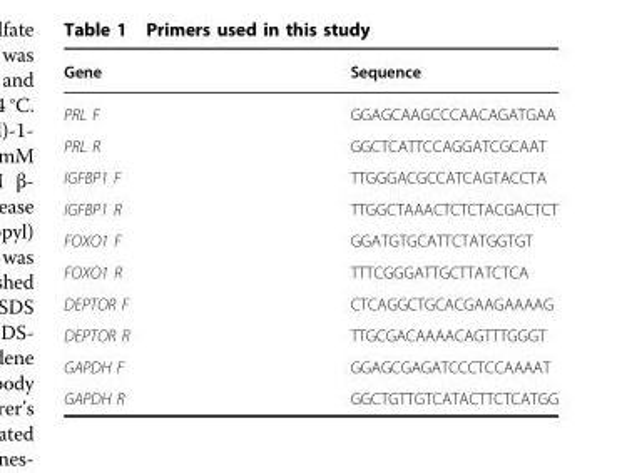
<table><thead><tr><td>Gene</td><td>Sequence</td></tr></thead><tbody><tr><td>PRL F</td><td>GGAGCAAGCCCAACAGATGAA</td></tr><tr><td>PRL R</td><td>GGCTCATTCCAGGATCGCAAT</td></tr><tr><td>IGFBP1 F</td><td>TTGGGACGCCATCAGTACCTA</td></tr><tr><td>IGFBP1 R</td><td>TTGGCTAAACTCTCTACGACTCT</td></tr><tr><td>FOXO1 F</td><td>GGATGTGCATTCTATGGTGT</td></tr><tr><td>FOXO1 R</td><td>TTTCGGGATTGCTTATCTCA</td></tr><tr><td>DEPTOR F</td><td>CTCAGGCTGCACGAAGAAAAG</td></tr><tr><td>DEPTOR R</td><td>TTGCGACAAAACAGTTTGGGT</td></tr><tr><td>GAPDH F</td><td>GGAGCGAGATCCCTCCAAAAT</td></tr><tr><td>GAPDH R</td><td>GGCTGTTGTCATACTTCTCATGG</td></tr></tbody></table>